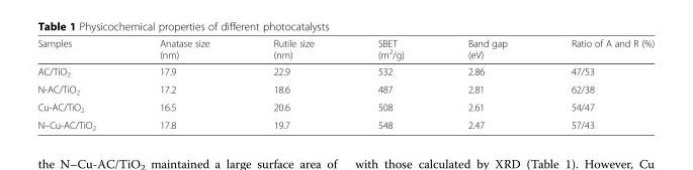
<table><thead><tr><td>Samples</td><td>Anatase size (nm)</td><td>Rutile size (nm)</td><td>SBET (m<sup>2</sup>/g)</td><td>Band gap (eV)</td><td>Ratio of A and R (%)</td></tr></thead><tbody><tr><td>AC/TiO<sub>2</sub></td><td>17.9</td><td>22.9</td><td>532</td><td>2.86</td><td>47/53</td></tr><tr><td>N-AC/TiO<sub>2</sub></td><td>17.2</td><td>18.6</td><td>487</td><td>2.81</td><td>62/38</td></tr><tr><td>Cu-AC/TiO<sub>2</sub></td><td>16.5</td><td>20.6</td><td>508</td><td>2.61</td><td>54/47</td></tr><tr><td>N–Cu-AC/TiO<sub>2</sub></td><td>17.8</td><td>19.7</td><td>548</td><td>2.47</td><td>57/43</td></tr></tbody></table>